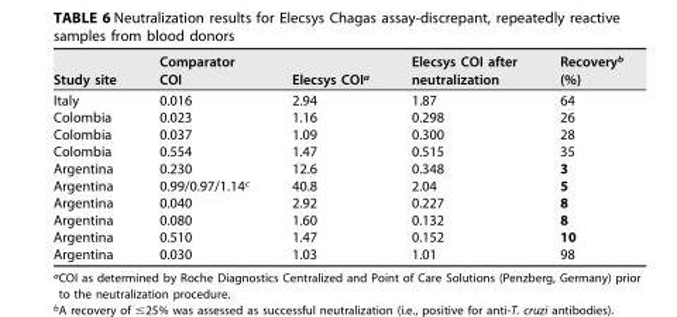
<table><thead><tr><td>Study site</td><td>Comparator COI</td><td>Elecsys COI<sup>a</sup></td><td>Elecsys COI after neutralization</td><td>Recovery<sup>b</sup> (%)</td></tr></thead><tbody><tr><td>Italy</td><td>0.016</td><td>2.94</td><td>1.87</td><td>64</td></tr><tr><td>Colombia</td><td>0.023</td><td>1.16</td><td>0.298</td><td>26</td></tr><tr><td>Colombia</td><td>0.037</td><td>1.09</td><td>0.300</td><td>28</td></tr><tr><td>Colombia</td><td>0.554</td><td>1.47</td><td>0.515</td><td>35</td></tr><tr><td>Argentina</td><td>0.230</td><td>12.6</td><td>0.348</td><td>3</td></tr><tr><td>Argentina</td><td>0.99/0.97/1.14<sup>c</sup></td><td>40.8</td><td>2.04</td><td>5</td></tr><tr><td>Argentina</td><td>0.040</td><td>2.92</td><td>0.227</td><td>8</td></tr><tr><td>Argentina</td><td>0.080</td><td>1.60</td><td>0.132</td><td>8</td></tr><tr><td>Argentina</td><td>0.510</td><td>1.47</td><td>0.152</td><td>10</td></tr><tr><td>Argentina</td><td>0.030</td><td>1.03</td><td>1.01</td><td>98</td></tr></tbody></table>